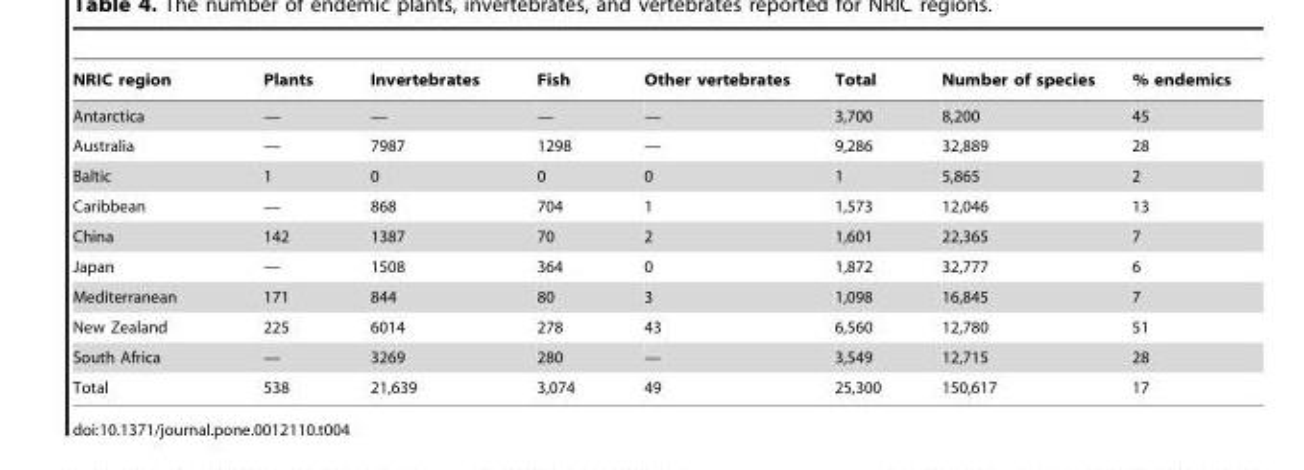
<table><thead><tr><td>NRIC region</td><td>Plants</td><td>Invertebrates</td><td>Fish</td><td>Other vertebrates</td><td>Total</td><td>Number of species</td><td>% endemics</td></tr></thead><tbody><tr><td>Antarctica</td><td>—</td><td>—</td><td>—</td><td>—</td><td>3,700</td><td>8,200</td><td>45</td></tr><tr><td>Australia</td><td>—</td><td>7987</td><td>1298</td><td>—</td><td>9,286</td><td>32,889</td><td>28</td></tr><tr><td>Baltic</td><td>1</td><td>0</td><td>0</td><td>0</td><td>1</td><td>5,865</td><td>2</td></tr><tr><td>Caribbean</td><td>—</td><td>868</td><td>704</td><td>1</td><td>1,573</td><td>12,046</td><td>13</td></tr><tr><td>China</td><td>142</td><td>1387</td><td>70</td><td>2</td><td>1,601</td><td>22,365</td><td>7</td></tr><tr><td>Japan</td><td>—</td><td>1508</td><td>364</td><td>0</td><td>1,872</td><td>32,777</td><td>6</td></tr><tr><td>Mediterranean</td><td>171</td><td>844</td><td>80</td><td>3</td><td>1,098</td><td>16,845</td><td>7</td></tr><tr><td>New Zealand</td><td>225</td><td>6014</td><td>278</td><td>43</td><td>6,560</td><td>12,780</td><td>51</td></tr><tr><td>South Africa</td><td>—</td><td>3269</td><td>280</td><td>—</td><td>3,549</td><td>12,715</td><td>28</td></tr><tr><td>Total</td><td>538</td><td>21,639</td><td>3,074</td><td>49</td><td>25,300</td><td>150,617</td><td>17</td></tr></tbody></table>